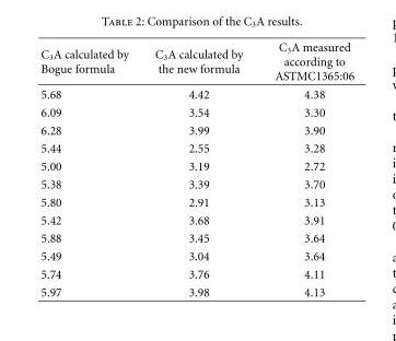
<table><thead><tr><td>C<sub>3</sub>A calculated by Bogue formula</td><td>C<sub>3</sub>A calculated by the new formula</td><td>C<sub>3</sub>A measured according to ASTMC1365:06</td></tr></thead><tbody><tr><td>5.68</td><td>4.42</td><td>4.38</td></tr><tr><td>6.09</td><td>3.54</td><td>3.30</td></tr><tr><td>6.28</td><td>3.99</td><td>3.90</td></tr><tr><td>5.44</td><td>2.55</td><td>3.28</td></tr><tr><td>5.00</td><td>3.19</td><td>2.72</td></tr><tr><td>5.38</td><td>3.39</td><td>3.70</td></tr><tr><td>5.80</td><td>2.91</td><td>3.13</td></tr><tr><td>5.42</td><td>3.68</td><td>3.91</td></tr><tr><td>5.88</td><td>3.45</td><td>3.64</td></tr><tr><td>5.49</td><td>3.04</td><td>3.64</td></tr><tr><td>5.74</td><td>3.76</td><td>4.11</td></tr><tr><td>5.97</td><td>3.98</td><td>4.13</td></tr></tbody></table>